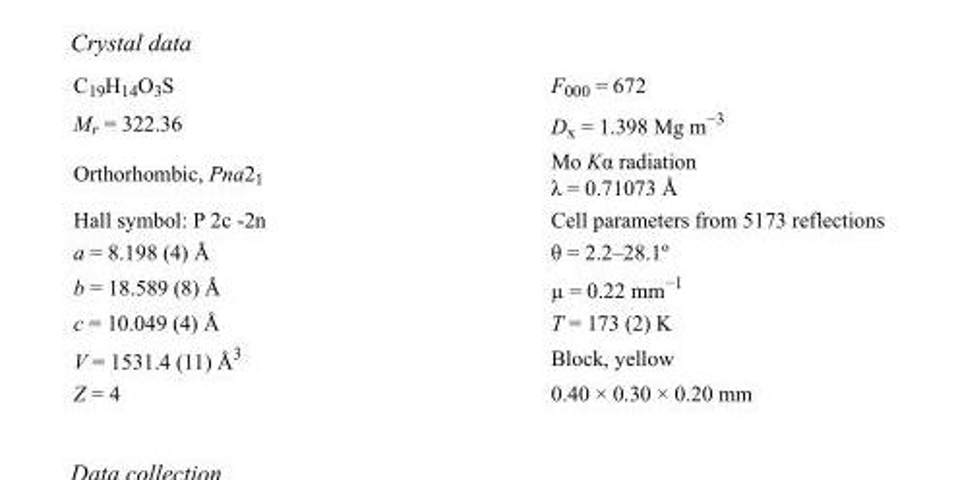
<table><tbody><tr><td>C<sub>19</sub>H<sub>14</sub>O<sub>3</sub>S</td><td>F<sub>000</sub> = 672</td></tr><tr><td>M<sub>r</sub> = 322.36</td><td>D<sub>x</sub> = 1.398 Mg m<sup>−3</sup></td></tr><tr><td>Orthorhombic, Pna2<sub>1</sub></td><td>Mo Kα radiation λ = 0.71073 Å</td></tr><tr><td>Hall symbol: P 2c -2n</td><td>Cell parameters from 5173 reflections</td></tr><tr><td>a = 8.198 (4) Å</td><td>θ = 2.2–28.1º</td></tr><tr><td>b = 18.589 (8) Å</td><td>µ = 0.22 mm<sup>−1</sup></td></tr><tr><td>c = 10.049 (4) Å</td><td>T = 173 (2) K</td></tr><tr><td>V = 1531.4 (11) Å<sup>3</sup></td><td>Block, yellow</td></tr><tr><td>Z = 4</td><td>0.40 × 0.30 × 0.20 mm</td></tr></tbody></table>